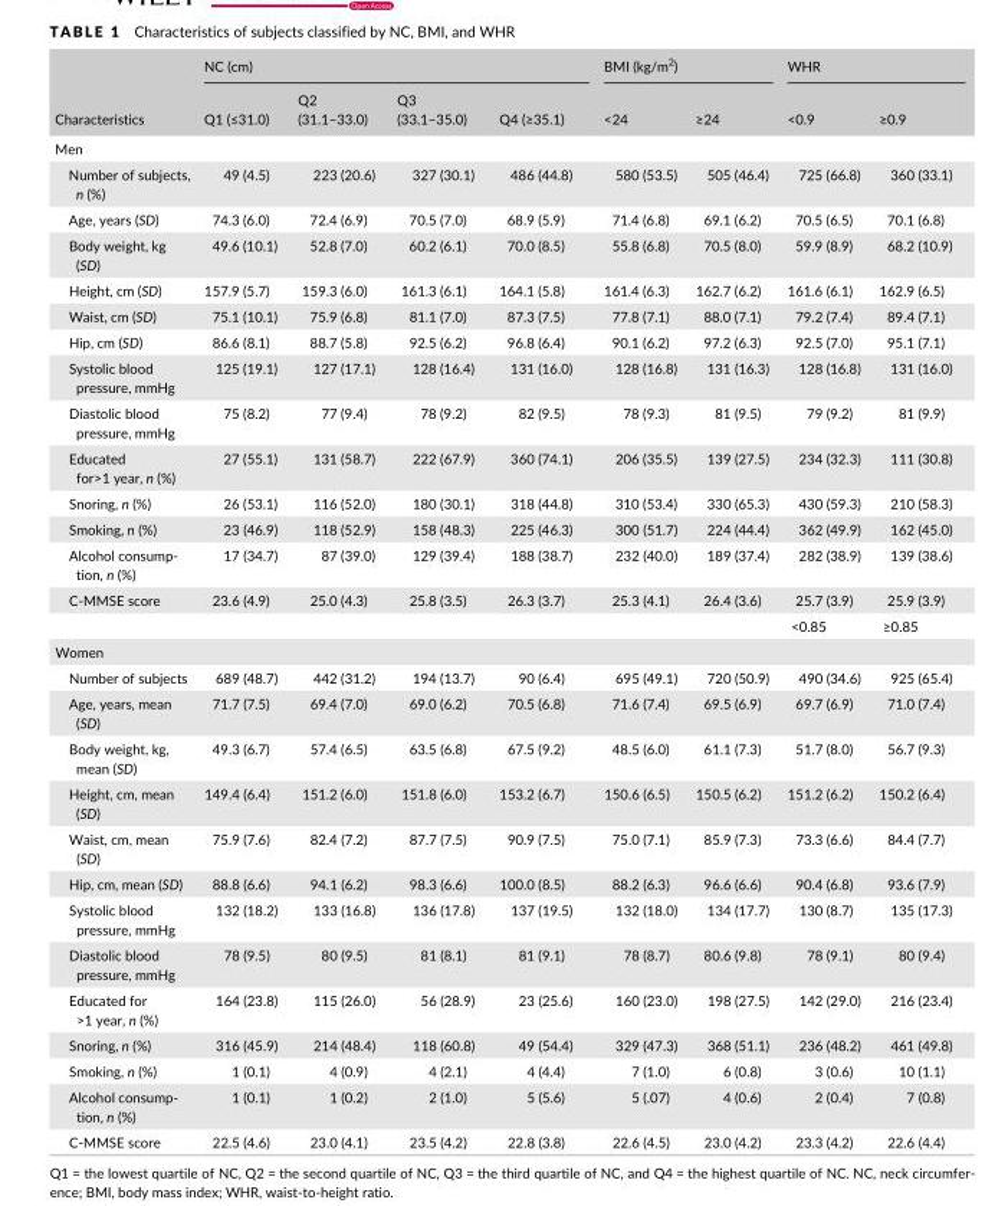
<table><thead><tr><td rowspan="2">Characteristics</td><td colspan="4">NC (cm)</td><td colspan="2">BMI (kg/m<sup>2</sup>)</td><td colspan="2">WHR</td></tr><tr><td>Q1 (≤31.0)</td><td>Q2 (31.1–33.0)</td><td>Q3 (33.1–35.0)</td><td>Q4 (≥35.1)</td><td>&lt;24</td><td>≥24</td><td>&lt;0.9</td><td>≥0.9</td></tr></thead><tbody><tr><td colspan="9">Men</td></tr><tr><td>Number of subjects, n (%)</td><td>49 (4.5)</td><td>223 (20.6)</td><td>327 (30.1)</td><td>486 (44.8)</td><td>580 (53.5)</td><td>505 (46.4)</td><td>725 (66.8)</td><td>360 (33.1)</td></tr><tr><td>Age, years (SD)</td><td>74.3 (6.0)</td><td>72.4 (6.9)</td><td>70.5 (7.0)</td><td>68.9 (5.9)</td><td>71.4 (6.8)</td><td>69.1 (6.2)</td><td>70.5 (6.5)</td><td>70.1 (6.8)</td></tr><tr><td>Body weight, kg (SD)</td><td>49.6 (10.1)</td><td>52.8 (7.0)</td><td>60.2 (6.1)</td><td>70.0 (8.5)</td><td>55.8 (6.8)</td><td>70.5 (8.0)</td><td>59.9 (8.9)</td><td>68.2 (10.9)</td></tr><tr><td>Height, cm (SD)</td><td>157.9 (5.7)</td><td>159.3 (6.0)</td><td>161.3 (6.1)</td><td>164.1 (5.8)</td><td>161.4 (6.3)</td><td>162.7 (6.2)</td><td>161.6 (6.1)</td><td>162.9 (6.5)</td></tr><tr><td>Waist, cm (SD)</td><td>75.1 (10.1)</td><td>75.9 (6.8)</td><td>81.1 (7.0)</td><td>87.3 (7.5)</td><td>77.8 (7.1)</td><td>88.0 (7.1)</td><td>79.2 (7.4)</td><td>89.4 (7.1)</td></tr><tr><td>Hip, cm (SD)</td><td>86.6 (8.1)</td><td>88.7 (5.8)</td><td>92.5 (6.2)</td><td>96.8 (6.4)</td><td>90.1 (6.2)</td><td>97.2 (6.3)</td><td>92.5 (7.0)</td><td>95.1 (7.1)</td></tr><tr><td>Systolic blood pressure, mmHg</td><td>125 (19.1)</td><td>127 (17.1)</td><td>128 (16.4)</td><td>131 (16.0)</td><td>128 (16.8)</td><td>131 (16.3)</td><td>128 (16.8)</td><td>131 (16.0)</td></tr><tr><td>Diastolic blood pressure, mmHg</td><td>75 (8.2)</td><td>77 (9.4)</td><td>78 (9.2)</td><td>82 (9.5)</td><td>78 (9.3)</td><td>81 (9.5)</td><td>79 (9.2)</td><td>81 (9.9)</td></tr><tr><td>Educated for&gt;1 year, n (%)</td><td>27 (55.1)</td><td>131 (58.7)</td><td>222 (67.9)</td><td>360 (74.1)</td><td>206 (35.5)</td><td>139 (27.5)</td><td>234 (32.3)</td><td>111 (30.8)</td></tr><tr><td>Snoring, n (%)</td><td>26 (53.1)</td><td>116 (52.0)</td><td>180 (30.1)</td><td>318 (44.8)</td><td>310 (53.4)</td><td>330 (65.3)</td><td>430 (59.3)</td><td>210 (58.3)</td></tr><tr><td>Smoking, n (%)</td><td>23 (46.9)</td><td>118 (52.9)</td><td>158 (48.3)</td><td>225 (46.3)</td><td>300 (51.7)</td><td>224 (44.4)</td><td>362 (49.9)</td><td>162 (45.0)</td></tr><tr><td>Alcohol consump- tion, n (%)</td><td>17 (34.7)</td><td>87 (39.0)</td><td>129 (39.4)</td><td>188 (38.7)</td><td>232 (40.0)</td><td>189 (37.4)</td><td>282 (38.9)</td><td>139 (38.6)</td></tr><tr><td rowspan="2">C- MMSE score</td><td>23.6 (4.9)</td><td>25.0 (4.3)</td><td>25.8 (3.5)</td><td>26.3 (3.7)</td><td>25.3 (4.1)</td><td>26.4 (3.6)</td><td>25.7 (3.9)</td><td>25.9 (3.9)</td></tr><tr><td></td><td></td><td></td><td></td><td></td><td></td><td>&lt;0.85</td><td>≥0.85</td></tr><tr><td colspan="9">Women</td></tr><tr><td>Number of subjects</td><td>689 (48.7)</td><td>442 (31.2)</td><td>194 (13.7)</td><td>90 (6.4)</td><td>695 (49.1)</td><td>720 (50.9)</td><td>490 (34.6)</td><td>925 (65.4)</td></tr><tr><td>Age, years, mean (SD)</td><td>71.7 (7.5)</td><td>69.4 (7.0)</td><td>69.0 (6.2)</td><td>70.5 (6.8)</td><td>71.6 (7.4)</td><td>69.5 (6.9)</td><td>69.7 (6.9)</td><td>71.0 (7.4)</td></tr><tr><td>Body weight, kg, mean (SD)</td><td>49.3 (6.7)</td><td>57.4 (6.5)</td><td>63.5 (6.8)</td><td>67.5 (9.2)</td><td>48.5 (6.0)</td><td>61.1 (7.3)</td><td>51.7 (8.0)</td><td>56.7 (9.3)</td></tr><tr><td>Height, cm, mean (SD)</td><td>149.4 (6.4)</td><td>151.2 (6.0)</td><td>151.8 (6.0)</td><td>153.2 (6.7)</td><td>150.6 (6.5)</td><td>150.5 (6.2)</td><td>151.2 (6.2)</td><td>150.2 (6.4)</td></tr><tr><td>Waist, cm, mean (SD)</td><td>75.9 (7.6)</td><td>82.4 (7.2)</td><td>87.7 (7.5)</td><td>90.9 (7.5)</td><td>75.0 (7.1)</td><td>85.9 (7.3)</td><td>73.3 (6.6)</td><td>84.4 (7.7)</td></tr><tr><td>Hip, cm, mean (SD)</td><td>88.8 (6.6)</td><td>94.1 (6.2)</td><td>98.3 (6.6)</td><td>100.0 (8.5)</td><td>88.2 (6.3)</td><td>96.6 (6.6)</td><td>90.4 (6.8)</td><td>93.6 (7.9)</td></tr><tr><td>Systolic blood pressure, mmHg</td><td>132 (18.2)</td><td>133 (16.8)</td><td>136 (17.8)</td><td>137 (19.5)</td><td>132 (18.0)</td><td>134 (17.7)</td><td>130 (8.7)</td><td>135 (17.3)</td></tr><tr><td>Diastolic blood pressure, mmHg</td><td>78 (9.5)</td><td>80 (9.5)</td><td>81 (8.1)</td><td>81 (9.1)</td><td>78 (8.7)</td><td>80.6 (9.8)</td><td>78 (9.1)</td><td>80 (9.4)</td></tr><tr><td>Educated for &gt;1 year, n (%)</td><td>164 (23.8)</td><td>115 (26.0)</td><td>56 (28.9)</td><td>23 (25.6)</td><td>160 (23.0)</td><td>198 (27.5)</td><td>142 (29.0)</td><td>216 (23.4)</td></tr><tr><td>Snoring, n (%)</td><td>316 (45.9)</td><td>214 (48.4)</td><td>118 (60.8)</td><td>49 (54.4)</td><td>329 (47.3)</td><td>368 (51.1)</td><td>236 (48.2)</td><td>461 (49.8)</td></tr><tr><td>Smoking, n (%)</td><td>1 (0.1)</td><td>4 (0.9)</td><td>4 (2.1)</td><td>4 (4.4)</td><td>7 (1.0)</td><td>6 (0.8)</td><td>3 (0.6)</td><td>10 (1.1)</td></tr><tr><td>Alcohol consump- tion, n (%)</td><td>1 (0.1)</td><td>1 (0.2)</td><td>2 (1.0)</td><td>5 (5.6)</td><td>5 (.07)</td><td>4 (0.6)</td><td>2 (0.4)</td><td>7 (0.8)</td></tr><tr><td>C- MMSE score</td><td>22.5 (4.6)</td><td>23.0 (4.1)</td><td>23.5 (4.2)</td><td>22.8 (3.8)</td><td>22.6 (4.5)</td><td>23.0 (4.2)</td><td>23.3 (4.2)</td><td>22.6 (4.4)</td></tr></tbody></table>